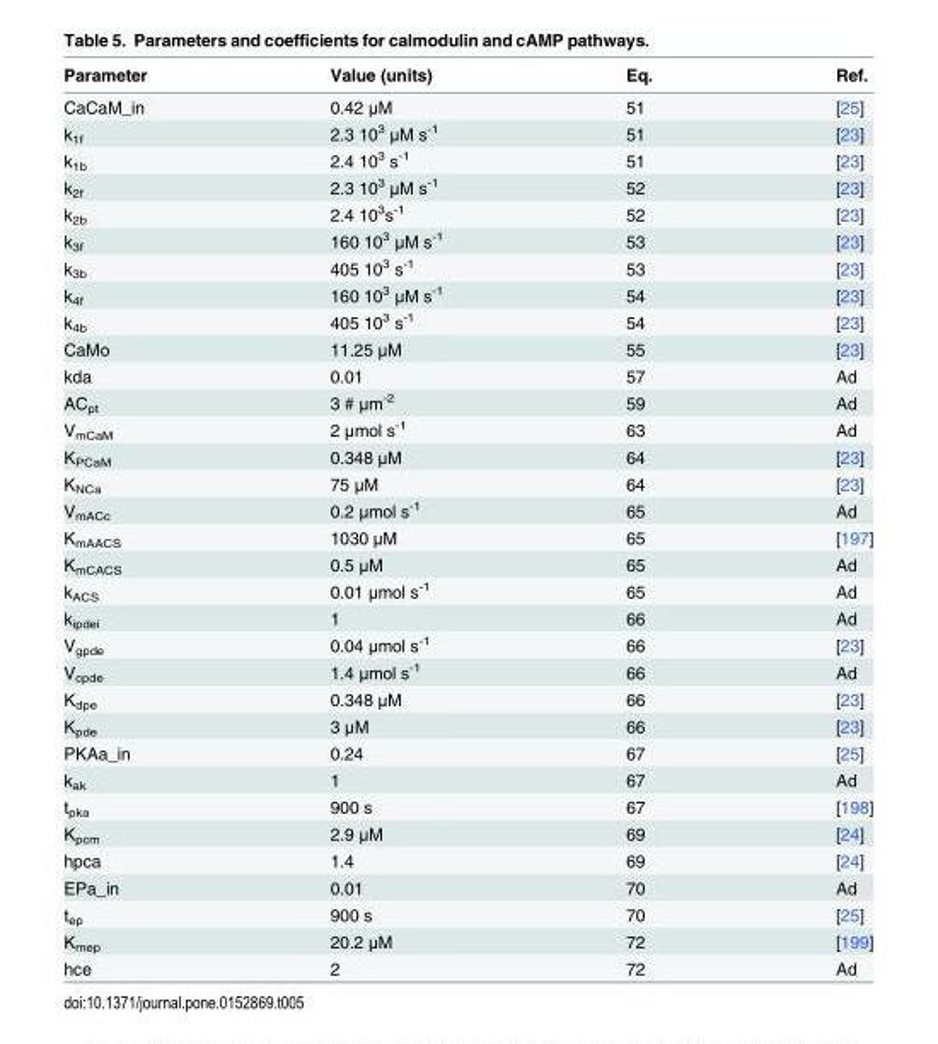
<table><thead><tr><td>Parameter</td><td>Value (units)</td><td>Eq.</td><td>Ref.</td></tr></thead><tbody><tr><td>CaCaM_in</td><td>0.42 μM</td><td>51</td><td>[25]</td></tr><tr><td>k<sub>1f</sub></td><td>2.3 10<sup>3</sup> μM s<sup>-1</sup></td><td>51</td><td>[23]</td></tr><tr><td>k<sub>1b</sub></td><td>2.4 10<sup>3</sup> s<sup>-1</sup></td><td>51</td><td>[23]</td></tr><tr><td>k<sub>2f</sub></td><td>2.3 10<sup>3</sup> μM s<sup>-1</sup></td><td>52</td><td>[23]</td></tr><tr><td>k<sub>2b</sub></td><td>2.4 10<sup>3</sup>s<sup>-1</sup></td><td>52</td><td>[23]</td></tr><tr><td>k<sub>3f</sub></td><td>160 10<sup>3</sup> μM s<sup>-1</sup></td><td>53</td><td>[23]</td></tr><tr><td>k<sub>3b</sub></td><td>405 10<sup>3</sup> s<sup>-1</sup></td><td>53</td><td>[23]</td></tr><tr><td>k<sub>4f</sub></td><td>160 10<sup>3</sup> μM s<sup>-1</sup></td><td>54</td><td>[23]</td></tr><tr><td>k<sub>4b</sub></td><td>405 10<sup>3</sup> s<sup>-1</sup></td><td>54</td><td>[23]</td></tr><tr><td>CaMo</td><td>11.25 μM</td><td>55</td><td>[23]</td></tr><tr><td>kda</td><td>0.01</td><td>57</td><td>Ad</td></tr><tr><td>AC<sub>pt</sub></td><td>3 # μm<sup>-2</sup></td><td>59</td><td>Ad</td></tr><tr><td>V<sub>mCaM</sub></td><td>2 μmol s<sup>-1</sup></td><td>63</td><td>Ad</td></tr><tr><td>K<sub>PCaM</sub></td><td>0.348 μM</td><td>64</td><td>[23]</td></tr><tr><td>K<sub>NCa</sub></td><td>75 μM</td><td>64</td><td>[23]</td></tr><tr><td>V<sub>mACc</sub></td><td>0.2 μmol s<sup>-1</sup></td><td>65</td><td>Ad</td></tr><tr><td>K<sub>mAACS</sub></td><td>1030 μM</td><td>65</td><td>[197]</td></tr><tr><td>K<sub>mCACS</sub></td><td>0.5 μM</td><td>65</td><td>Ad</td></tr><tr><td>k<sub>ACS</sub></td><td>0.01 μmol s<sup>-1</sup></td><td>65</td><td>Ad</td></tr><tr><td>k<sub>ipdei</sub></td><td>1</td><td>66</td><td>Ad</td></tr><tr><td>V<sub>gpde</sub></td><td>0.04 μmol s<sup>-1</sup></td><td>66</td><td>[23]</td></tr><tr><td>V<sub>cpde</sub></td><td>1.4 μmol s<sup>-1</sup></td><td>66</td><td>Ad</td></tr><tr><td>K<sub>dpe</sub></td><td>0.348 μM</td><td>66</td><td>[23]</td></tr><tr><td>K<sub>pde</sub></td><td>3 μM</td><td>66</td><td>[23]</td></tr><tr><td>PKAa_in</td><td>0.24</td><td>67</td><td>[25]</td></tr><tr><td>k<sub>ak</sub></td><td>1</td><td>67</td><td>Ad</td></tr><tr><td>t<sub>pka</sub></td><td>900 s</td><td>67</td><td>[198]</td></tr><tr><td>K<sub>pcm</sub></td><td>2.9 μM</td><td>69</td><td>[24]</td></tr><tr><td>hpca</td><td>1.4</td><td>69</td><td>[24]</td></tr><tr><td>EPa_in</td><td>0.01</td><td>70</td><td>Ad</td></tr><tr><td>t<sub>ep</sub></td><td>900 s</td><td>70</td><td>[25]</td></tr><tr><td>K<sub>mep</sub></td><td>20.2 μM</td><td>72</td><td>[199]</td></tr><tr><td>hce</td><td>2</td><td>72</td><td>Ad</td></tr></tbody></table>